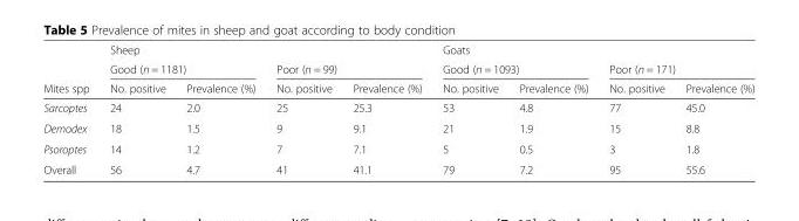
<table><thead><tr><td rowspan="3">Mites spp</td><td colspan="4">Sheep</td><td colspan="4">Goats</td></tr><tr><td colspan="2">Good (n = 1181)</td><td colspan="2">Poor (n = 99)</td><td colspan="2">Good (n = 1093)</td><td colspan="2">Poor (n = 171)</td></tr><tr><td>No. positive</td><td>Prevalence (%)</td><td>No. positive</td><td>Prevalence (%)</td><td>No. positive</td><td>Prevalence (%)</td><td>No. positive</td><td>Prevalence (%)</td></tr></thead><tbody><tr><td>Sarcoptes</td><td>24</td><td>2.0</td><td>25</td><td>25.3</td><td>53</td><td>4.8</td><td>77</td><td>45.0</td></tr><tr><td>Demodex</td><td>18</td><td>1.5</td><td>9</td><td>9.1</td><td>21</td><td>1.9</td><td>15</td><td>8.8</td></tr><tr><td>Psoroptes</td><td>14</td><td>1.2</td><td>7</td><td>7.1</td><td>5</td><td>0.5</td><td>3</td><td>1.8</td></tr><tr><td>Overall</td><td>56</td><td>4.7</td><td>41</td><td>41.1</td><td>79</td><td>7.2</td><td>95</td><td>55.6</td></tr></tbody></table>